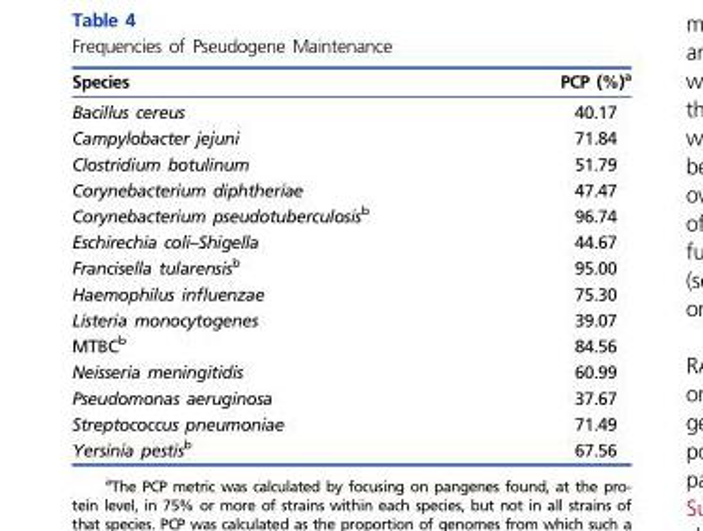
<table><thead><tr><td>Species</td><td>PCP (%)<sup>a</sup></td></tr></thead><tbody><tr><td>Bacillus cereus</td><td>40.17</td></tr><tr><td>Campylobacter jejuni</td><td>71.84</td></tr><tr><td>Clostridium botulinum</td><td>51.79</td></tr><tr><td>Corynebacterium diphtheriae</td><td>47.47</td></tr><tr><td>Corynebacterium pseudotuberculosis<sup>b</sup></td><td>96.74</td></tr><tr><td>Eschirechia coli–Shigella</td><td>44.67</td></tr><tr><td>Francisella tularensis<sup>b</sup></td><td>95.00</td></tr><tr><td>Haemophilus influenzae</td><td>75.30</td></tr><tr><td>Listeria monocytogenes</td><td>39.07</td></tr><tr><td>MTBC<sup>b</sup></td><td>84.56</td></tr><tr><td>Neisseria meningitidis</td><td>60.99</td></tr><tr><td>Pseudomonas aeruginosa</td><td>37.67</td></tr><tr><td>Streptococcus pneumoniae</td><td>71.49</td></tr><tr><td>Yersinia pestis<sup>b</sup></td><td>67.56</td></tr></tbody></table>